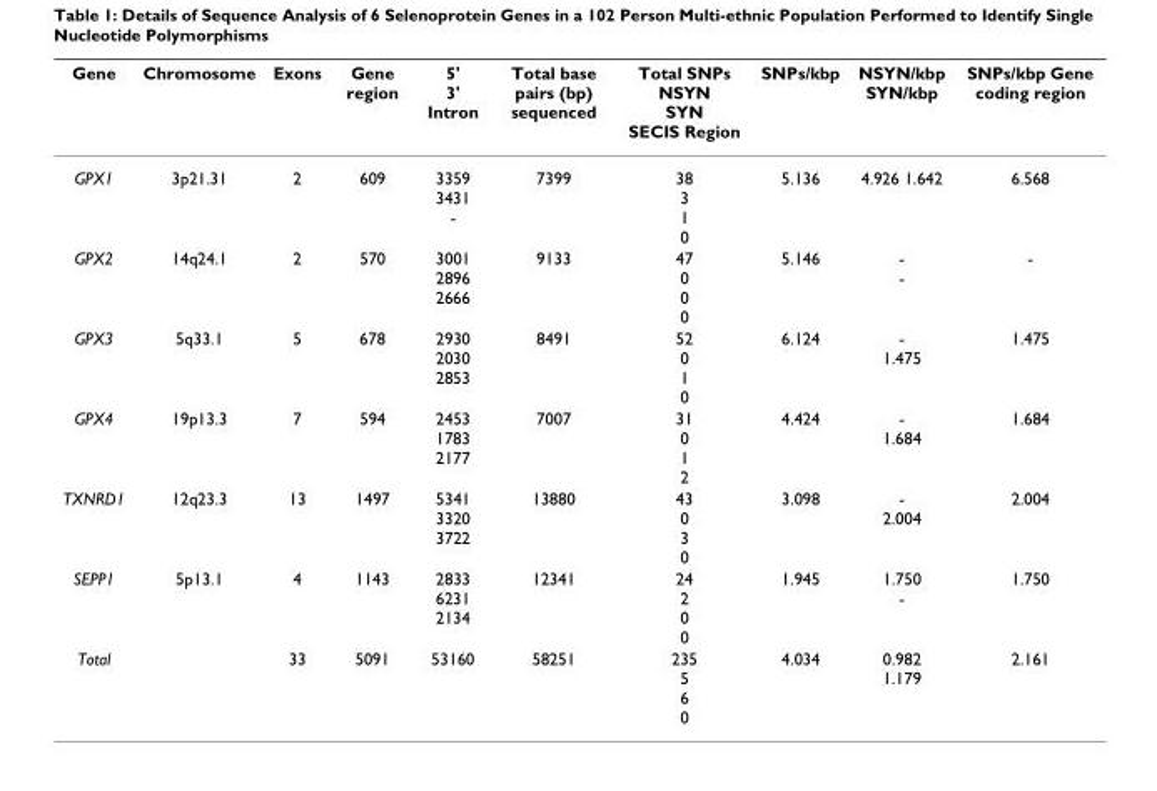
<table><thead><tr><td>Gene</td><td>Chromosome</td><td>Exons</td><td>Gene region</td><td>5&#x27; 3&#x27; Intron</td><td>Total base pairs (bp) sequenced</td><td>Total SNPs NSYN SYN SECIS Region</td><td>SNPs/kbp</td><td>NSYN/kbp SYN/kbp</td><td>SNPs/kbp Gene coding region</td></tr></thead><tbody><tr><td>GPX1</td><td>3p21.31</td><td>2</td><td>609</td><td>3359 3431 -</td><td>7399</td><td>38 3 1 0</td><td>5.136</td><td>4.926 1.642</td><td>6.568</td></tr><tr><td>GPX2</td><td>14q24.1</td><td>2</td><td>570</td><td>3001 2896 2666</td><td>9133</td><td>47 0 0 0</td><td>5.146</td><td>- -</td><td>-</td></tr><tr><td>GPX3</td><td>5q33.1</td><td>5</td><td>678</td><td>2930 2030 2853</td><td>8491</td><td>52 0 1 0</td><td>6.124</td><td>- 1.475</td><td>1.475</td></tr><tr><td>GPX4</td><td>19p13.3</td><td>7</td><td>594</td><td>2453 1783 2177</td><td>7007</td><td>31 0 1 2</td><td>4.424</td><td>- 1.684</td><td>1.684</td></tr><tr><td>TXNRD1</td><td>12q23.3</td><td>13</td><td>1497</td><td>5341 3320 3722</td><td>13880</td><td>43 0 3 0</td><td>3.098</td><td>- 2.004</td><td>2.004</td></tr><tr><td>SEPP1</td><td>5p13.1</td><td>4</td><td>1143</td><td>2833 6231 2134</td><td>12341</td><td>24 2 0 0</td><td>1.945</td><td>1.750 -</td><td>1.750</td></tr><tr><td>Total</td><td></td><td>33</td><td>5091</td><td>53160</td><td>58251</td><td>235 5 6 0</td><td>4.034</td><td>0.982 1.179</td><td>2.161</td></tr></tbody></table>